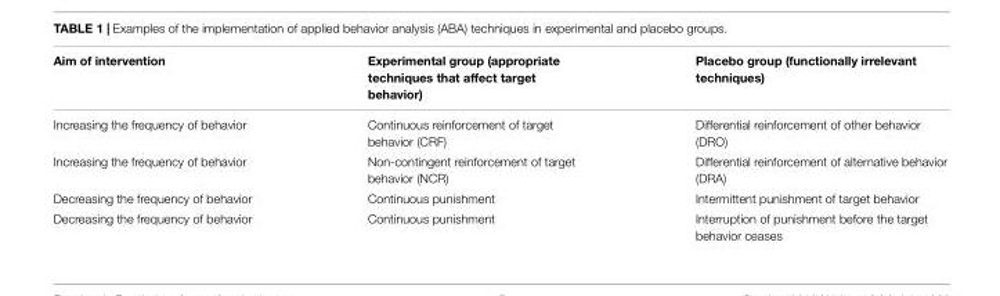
<table><thead><tr><td>Aim of intervention</td><td>Experimental group (appropriate techniques that affect target behavior)</td><td>Placebo group (functionally irrelevant techniques)</td></tr></thead><tbody><tr><td>Increasing the frequency of behavior</td><td>Continuous reinforcement of target behavior (CRF)</td><td>Differential reinforcement of other behavior (DRO)</td></tr><tr><td>Increasing the frequency of behavior</td><td>Non-contingent reinforcement of target behavior (NCR)</td><td>Differential reinforcement of alternative behavior (DRA)</td></tr><tr><td>Decreasing the frequency of behavior</td><td>Continuous punishment</td><td>Intermittent punishment of target behavior</td></tr><tr><td>Decreasing the frequency of behavior</td><td>Continuous punishment</td><td>Interruption of punishment before the target behavior ceases</td></tr></tbody></table>